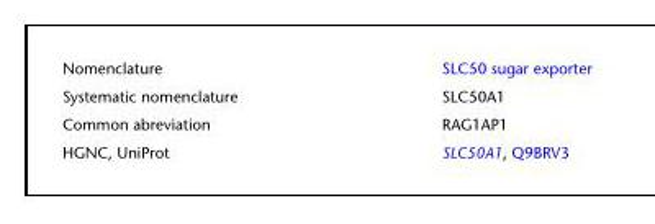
<table><tbody><tr><td>Nomenclature</td><td>SLC50 sugar exporter</td></tr><tr><td>Systematic nomenclature</td><td>SLC50A1</td></tr><tr><td>Common abreviation</td><td>RAG1AP1</td></tr><tr><td>HGNC, UniProt</td><td>SLC50A1, Q9BRV3</td></tr></tbody></table>